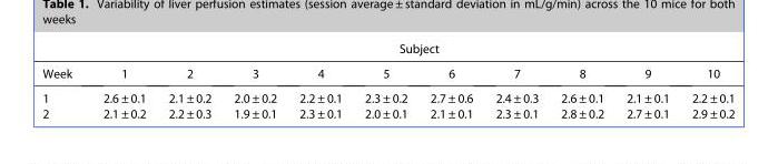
<table><thead><tr><td rowspan="2">Week</td><td colspan="10">Subject</td></tr><tr><td>1</td><td>2</td><td>3</td><td>4</td><td>5</td><td>6</td><td>7</td><td>8</td><td>9</td><td>10</td></tr></thead><tbody><tr><td>1</td><td>2.6 ± 0.1</td><td>2.1 ± 0.2</td><td>2.0 ± 0.2</td><td>2.2 ± 0.1</td><td>2.3 ± 0.2</td><td>2.7 ± 0.6</td><td>2.4 ± 0.3</td><td>2.6 ± 0.1</td><td>2.1 ± 0.1</td><td>2.2 ± 0.1</td></tr><tr><td>2</td><td>2.1 ± 0.2</td><td>2.2 ± 0.3</td><td>1.9 ± 0.1</td><td>2.3 ± 0.1</td><td>2.0 ± 0.1</td><td>2.1 ± 0.1</td><td>2.3 ± 0.1</td><td>2.8 ± 0.2</td><td>2.7 ± 0.1</td><td>2.9 ± 0.2</td></tr></tbody></table>